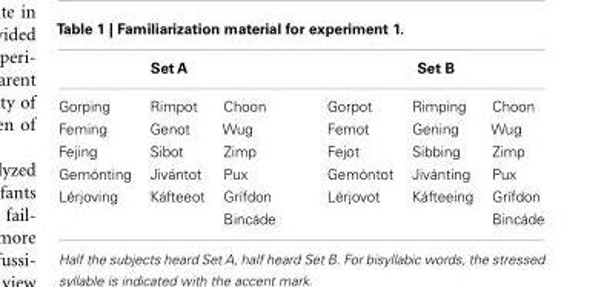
<table><thead><tr><td colspan="3">Set A</td><td colspan="3">Set B</td></tr><tr><td>Gorping</td><td>Rimpot</td><td>Choon</td><td>Gorpot</td><td>Rimping</td><td>Choon</td></tr></thead><tbody><tr><td>Feming</td><td>Genot</td><td>Wug</td><td>Femot</td><td>Gening</td><td>Wug</td></tr><tr><td>Fejing</td><td>Sibot</td><td>Zimp</td><td>Fejot</td><td>Sibbing</td><td>Zimp</td></tr><tr><td>Gemónting</td><td>Jivántot</td><td>Pux</td><td>Gemóntot</td><td>Jivánting</td><td>Pux</td></tr><tr><td rowspan="2">Lérjoving</td><td>Káfteeot</td><td>Grífdon</td><td>Lérjovot</td><td>Káfteeing</td><td>Grífdon</td></tr><tr><td></td><td>Bincáde</td><td></td><td></td><td>Bincáde</td></tr></tbody></table>